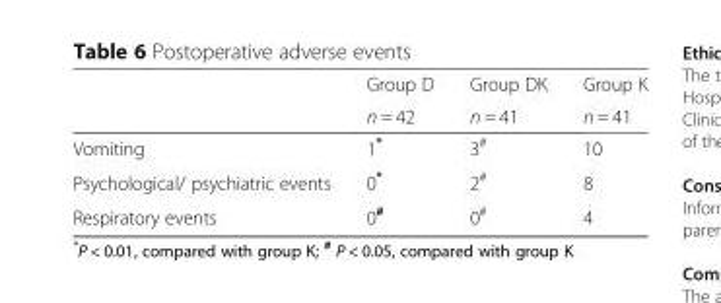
<table><thead><tr><td rowspan="2"></td><td rowspan="2">Group D n = 42</td><td rowspan="2">Group DK n = 41</td><td rowspan="2">Group K n = 41</td></tr><tr></tr></thead><tbody><tr><td>Vomiting</td><td>1*</td><td>3<sup>#</sup></td><td>10</td></tr><tr><td>Psychological/ psychiatric events</td><td>0*</td><td>2<sup>#</sup></td><td>8</td></tr><tr><td>Respiratory events</td><td>0<sup>#</sup></td><td>0<sup>#</sup></td><td>4</td></tr></tbody></table>